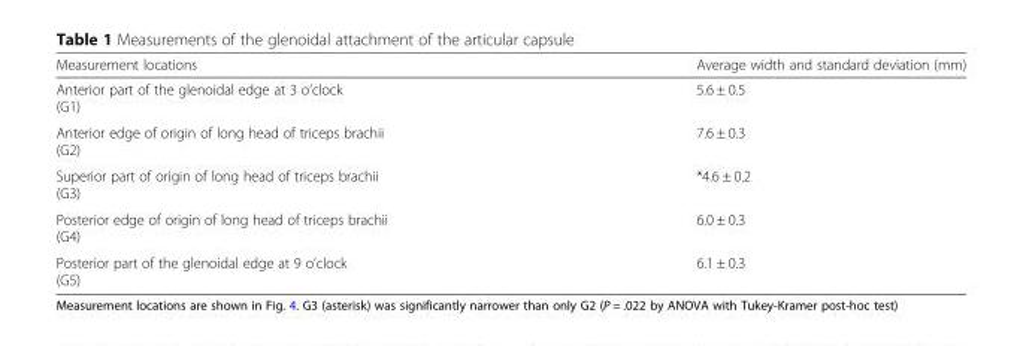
<table><thead><tr><td>Measurement locations</td><td>Average width and standard deviation (mm)</td></tr></thead><tbody><tr><td>Anterior part of the glenoidal edge at 3 o’clock (G1)</td><td>5.6 ± 0.5</td></tr><tr><td>Anterior edge of origin of long head of triceps brachii (G2)</td><td>7.6 ± 0.3</td></tr><tr><td>Superior part of origin of long head of triceps brachii (G3)</td><td>*4.6 ± 0.2</td></tr><tr><td>Posterior edge of origin of long head of triceps brachii (G4)</td><td>6.0 ± 0.3</td></tr><tr><td>Posterior part of the glenoidal edge at 9 o’clock (G5)</td><td>6.1 ± 0.3</td></tr></tbody></table>